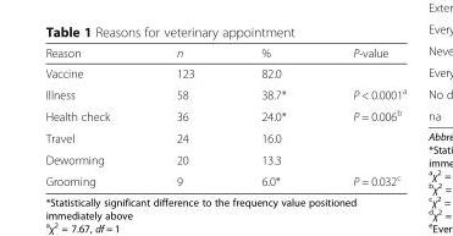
<table><thead><tr><td>Reason</td><td>n</td><td>%</td><td>P-value</td></tr></thead><tbody><tr><td>Vaccine</td><td>123</td><td>82.0</td><td></td></tr><tr><td>Illness</td><td>58</td><td>38.7*</td><td>P &lt; 0.0001<sup>a</sup></td></tr><tr><td>Health check</td><td>36</td><td>24.0*</td><td>P = 0.006<sup>b</sup></td></tr><tr><td>Travel</td><td>24</td><td>16.0</td><td></td></tr><tr><td>Deworming</td><td>20</td><td>13.3</td><td></td></tr><tr><td>Grooming</td><td>9</td><td>6.0*</td><td>P = 0.032<sup>c</sup></td></tr></tbody></table>